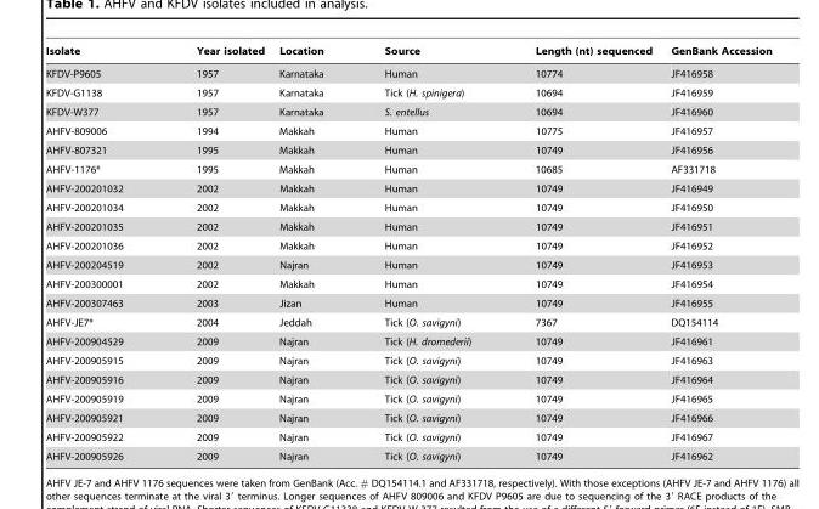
<table><thead><tr><td>Isolate</td><td>Year isolated</td><td>Location</td><td>Source</td><td>Length (nt) sequenced</td><td>GenBank Accession</td></tr></thead><tbody><tr><td>KFDV-P9605</td><td>1957</td><td>Karnataka</td><td>Human</td><td>10774</td><td>JF416958</td></tr><tr><td>KFDV-G1138</td><td>1957</td><td>Karnataka</td><td>Tick (H. spinigera)</td><td>10694</td><td>JF416959</td></tr><tr><td>KFDV-W377</td><td>1957</td><td>Karnataka</td><td>S. entellus</td><td>10694</td><td>JF416960</td></tr><tr><td>AHFV-809006</td><td>1994</td><td>Makkah</td><td>Human</td><td>10775</td><td>JF416957</td></tr><tr><td>AHFV-807321</td><td>1995</td><td>Makkah</td><td>Human</td><td>10749</td><td>JF416956</td></tr><tr><td>AHFV-1176*</td><td>1995</td><td>Makkah</td><td>Human</td><td>10685</td><td>AF331718</td></tr><tr><td>AHFV-200201032</td><td>2002</td><td>Makkah</td><td>Human</td><td>10749</td><td>JF416949</td></tr><tr><td>AHFV-200201034</td><td>2002</td><td>Makkah</td><td>Human</td><td>10749</td><td>JF416950</td></tr><tr><td>AHFV-200201035</td><td>2002</td><td>Makkah</td><td>Human</td><td>10749</td><td>JF416951</td></tr><tr><td>AHFV-200201036</td><td>2002</td><td>Makkah</td><td>Human</td><td>10749</td><td>JF416952</td></tr><tr><td>AHFV-200204519</td><td>2002</td><td>Najran</td><td>Human</td><td>10749</td><td>JF416953</td></tr><tr><td>AHFV-200300001</td><td>2002</td><td>Makkah</td><td>Human</td><td>10749</td><td>JF416954</td></tr><tr><td>AHFV-200307463</td><td>2003</td><td>Jizan</td><td>Human</td><td>10749</td><td>JF416955</td></tr><tr><td>AHFV-JE7*</td><td>2004</td><td>Jeddah</td><td>Tick (O. savigyni)</td><td>7367</td><td>DQ154114</td></tr><tr><td>AHFV-200904529</td><td>2009</td><td>Najran</td><td>Tick (H. dromederii)</td><td>10749</td><td>JF416961</td></tr><tr><td>AHFV-200905915</td><td>2009</td><td>Najran</td><td>Tick (O. savigyni)</td><td>10749</td><td>JF416963</td></tr><tr><td>AHFV-200905916</td><td>2009</td><td>Najran</td><td>Tick (O. savigyni)</td><td>10749</td><td>JF416964</td></tr><tr><td>AHFV-200905919</td><td>2009</td><td>Najran</td><td>Tick (O. savigyni)</td><td>10749</td><td>JF416965</td></tr><tr><td>AHFV-200905921</td><td>2009</td><td>Najran</td><td>Tick (O. savigyni)</td><td>10749</td><td>JF416966</td></tr><tr><td>AHFV-200905922</td><td>2009</td><td>Najran</td><td>Tick (O. savigyni)</td><td>10749</td><td>JF416967</td></tr><tr><td>AHFV-200905926</td><td>2009</td><td>Najran</td><td>Tick (O. savigyni)</td><td>10749</td><td>JF416962</td></tr></tbody></table>